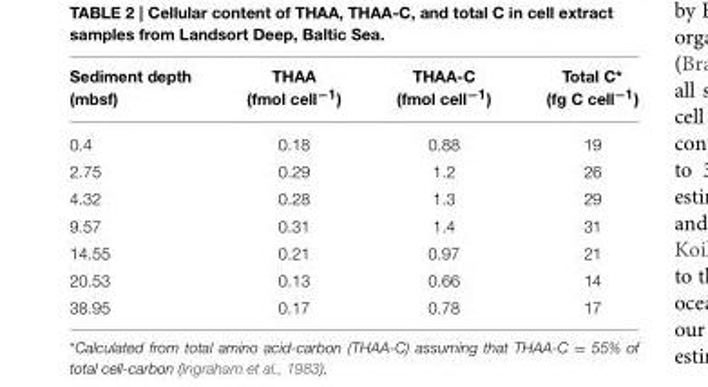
<table><thead><tr><td>Sediment depth (mbsf)</td><td>THAA (fmol cell<sup>−1</sup>)</td><td>THAA-C (fmol cell<sup>−1</sup>)</td><td>Total C* (fg C cell<sup>−1</sup>)</td></tr></thead><tbody><tr><td>0.4</td><td>0.18</td><td>0.88</td><td>19</td></tr><tr><td>2.75</td><td>0.29</td><td>1.2</td><td>26</td></tr><tr><td>4.32</td><td>0.28</td><td>1.3</td><td>29</td></tr><tr><td>9.57</td><td>0.31</td><td>1.4</td><td>31</td></tr><tr><td>14.55</td><td>0.21</td><td>0.97</td><td>21</td></tr><tr><td>20.53</td><td>0.13</td><td>0.66</td><td>14</td></tr><tr><td>38.95</td><td>0.17</td><td>0.78</td><td>17</td></tr></tbody></table>